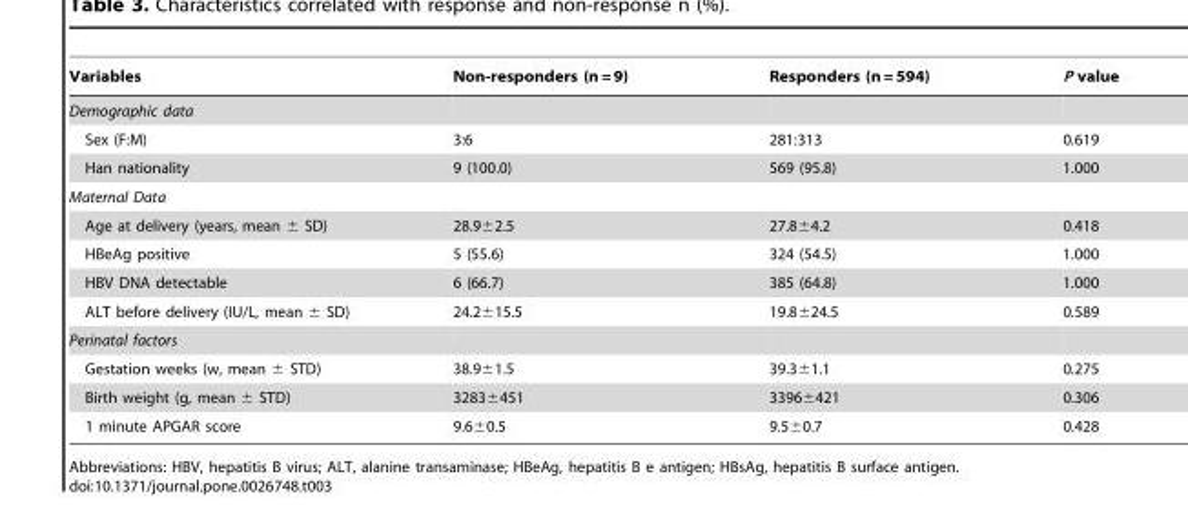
<table><thead><tr><td>Variables</td><td>Non-responders (n = 9)</td><td>Responders (n = 594)</td><td>P value</td></tr></thead><tbody><tr><td colspan="4">Demographic data</td></tr><tr><td>Sex (F:M)</td><td>3:6</td><td>281:313</td><td>0.619</td></tr><tr><td>Han nationality</td><td>9 (100.0)</td><td>569 (95.8)</td><td>1.000</td></tr><tr><td colspan="4">Maternal Data</td></tr><tr><td>Age at delivery (years, mean ± SD)</td><td>28.9±2.5</td><td>27.8±4.2</td><td>0.418</td></tr><tr><td>HBeAg positive</td><td>5 (55.6)</td><td>324 (54.5)</td><td>1.000</td></tr><tr><td>HBV DNA detectable</td><td>6 (66.7)</td><td>385 (64.8)</td><td>1.000</td></tr><tr><td>ALT before delivery (IU/L, mean ± SD)</td><td>24.2±15.5</td><td>19.8±24.5</td><td>0.589</td></tr><tr><td colspan="4">Perinatal factors</td></tr><tr><td>Gestation weeks (w, mean ± STD)</td><td>38.9±1.5</td><td>39.3±1.1</td><td>0.275</td></tr><tr><td>Birth weight (g, mean ± STD)</td><td>3283±451</td><td>3396±421</td><td>0.306</td></tr><tr><td>1 minute APGAR score</td><td>9.6±0.5</td><td>9.5±0.7</td><td>0.428</td></tr></tbody></table>